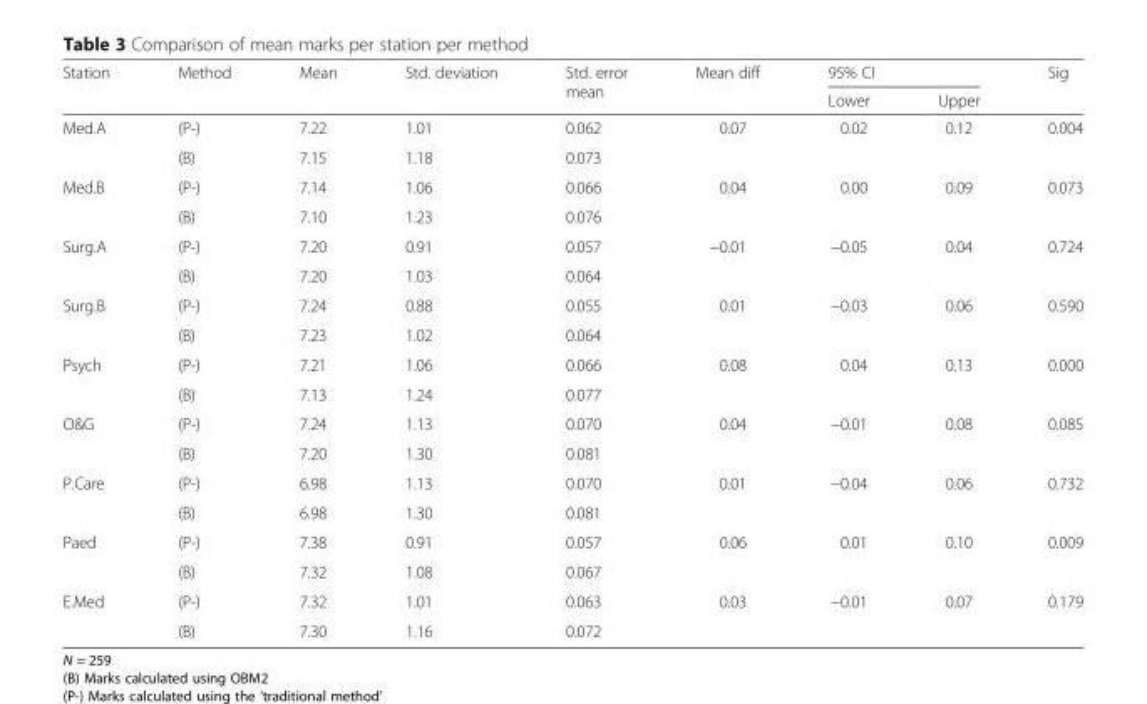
<table><thead><tr><td rowspan="2">Station</td><td rowspan="2">Method</td><td rowspan="2">Mean</td><td rowspan="2">Std. deviation</td><td rowspan="2">Std. error mean</td><td rowspan="2">Mean diff</td><td colspan="2">95% CI</td><td rowspan="2">Sig</td></tr><tr><td>Lower</td><td>Upper</td></tr></thead><tbody><tr><td rowspan="2">Med.A</td><td>(P-)</td><td>7.22</td><td>1.01</td><td>0.062</td><td rowspan="2">0.07</td><td rowspan="2">0.02</td><td rowspan="2">0.12</td><td rowspan="2">0.004</td></tr><tr><td>(B)</td><td>7.15</td><td>1.18</td><td>0.073</td></tr><tr><td rowspan="2">Med.B</td><td>(P-)</td><td>7.14</td><td>1.06</td><td>0.066</td><td rowspan="2">0.04</td><td rowspan="2">0.00</td><td rowspan="2">0.09</td><td rowspan="2">0.073</td></tr><tr><td>(B)</td><td>7.10</td><td>1.23</td><td>0.076</td></tr><tr><td rowspan="2">Surg.A</td><td>(P-)</td><td>7.20</td><td>0.91</td><td>0.057</td><td rowspan="2">−0.01</td><td rowspan="2">−0.05</td><td rowspan="2">0.04</td><td rowspan="2">0.724</td></tr><tr><td>(B)</td><td>7.20</td><td>1.03</td><td>0.064</td></tr><tr><td rowspan="2">Surg.B</td><td>(P-)</td><td>7.24</td><td>0.88</td><td>0.055</td><td rowspan="2">0.01</td><td rowspan="2">−0.03</td><td rowspan="2">0.06</td><td rowspan="2">0.590</td></tr><tr><td>(B)</td><td>7.23</td><td>1.02</td><td>0.064</td></tr><tr><td rowspan="2">Psych</td><td>(P-)</td><td>7.21</td><td>1.06</td><td>0.066</td><td rowspan="2">0.08</td><td rowspan="2">0.04</td><td rowspan="2">0.13</td><td rowspan="2">0.000</td></tr><tr><td>(B)</td><td>7.13</td><td>1.24</td><td>0.077</td></tr><tr><td rowspan="2">O&amp;G</td><td>(P-)</td><td>7.24</td><td>1.13</td><td>0.070</td><td rowspan="2">0.04</td><td rowspan="2">−0.01</td><td rowspan="2">0.08</td><td rowspan="2">0.085</td></tr><tr><td>(B)</td><td>7.20</td><td>1.30</td><td>0.081</td></tr><tr><td rowspan="2">P.Care</td><td>(P-)</td><td>6.98</td><td>1.13</td><td>0.070</td><td rowspan="2">0.01</td><td rowspan="2">−0.04</td><td rowspan="2">0.06</td><td rowspan="2">0.732</td></tr><tr><td>(B)</td><td>6.98</td><td>1.30</td><td>0.081</td></tr><tr><td rowspan="2">Paed</td><td>(P-)</td><td>7.38</td><td>0.91</td><td>0.057</td><td rowspan="2">0.06</td><td rowspan="2">0.01</td><td rowspan="2">0.10</td><td rowspan="2">0.009</td></tr><tr><td>(B)</td><td>7.32</td><td>1.08</td><td>0.067</td></tr><tr><td rowspan="2">E.Med</td><td>(P-)</td><td>7.32</td><td>1.01</td><td>0.063</td><td rowspan="2">0.03</td><td rowspan="2">−0.01</td><td rowspan="2">0.07</td><td rowspan="2">0.179</td></tr><tr><td>(B)</td><td>7.30</td><td>1.16</td><td>0.072</td></tr></tbody></table>